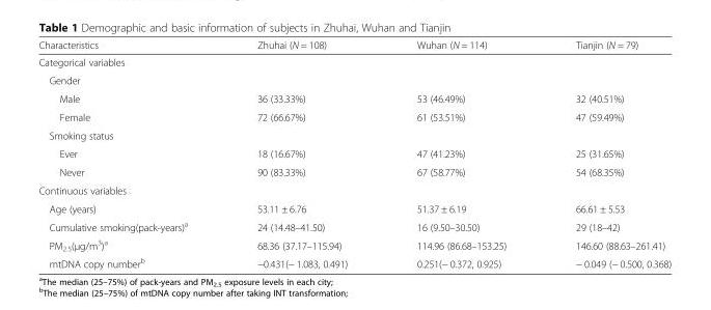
<table><thead><tr><td>Characteristics</td><td>Zhuhai (N = 108)</td><td>Wuhan (N = 114)</td><td>Tianjin (N = 79)</td></tr></thead><tbody><tr><td colspan="4">Categorical variables</td></tr><tr><td colspan="4">Gender</td></tr><tr><td>Male</td><td>36 (33.33%)</td><td>53 (46.49%)</td><td>32 (40.51%)</td></tr><tr><td>Female</td><td>72 (66.67%)</td><td>61 (53.51%)</td><td>47 (59.49%)</td></tr><tr><td colspan="4">Smoking status</td></tr><tr><td>Ever</td><td>18 (16.67%)</td><td>47 (41.23%)</td><td>25 (31.65%)</td></tr><tr><td>Never</td><td>90 (83.33%)</td><td>67 (58.77%)</td><td>54 (68.35%)</td></tr><tr><td colspan="4">Continuous variables</td></tr><tr><td>Age (years)</td><td>53.11 ± 6.76</td><td>51.37 ± 6.19</td><td>66.61 ± 5.53</td></tr><tr><td>Cumulative smoking(pack-years)<sup>a</sup></td><td>24 (14.48–41.50)</td><td>16 (9.50–30.50)</td><td>29 (18–42)</td></tr><tr><td>PM<sub>2.5</sub>(μg/m<sup>3</sup>)<sup>a</sup></td><td>68.36 (37.17–115.94)</td><td>114.96 (86.68–153.25)</td><td>146.60 (88.63–261.41)</td></tr><tr><td>mtDNA copy number<sup>b</sup></td><td>−0.431(− 1.083, 0.491)</td><td>0.251(− 0.372, 0.925)</td><td>− 0.049 (− 0.500, 0.368)</td></tr></tbody></table>